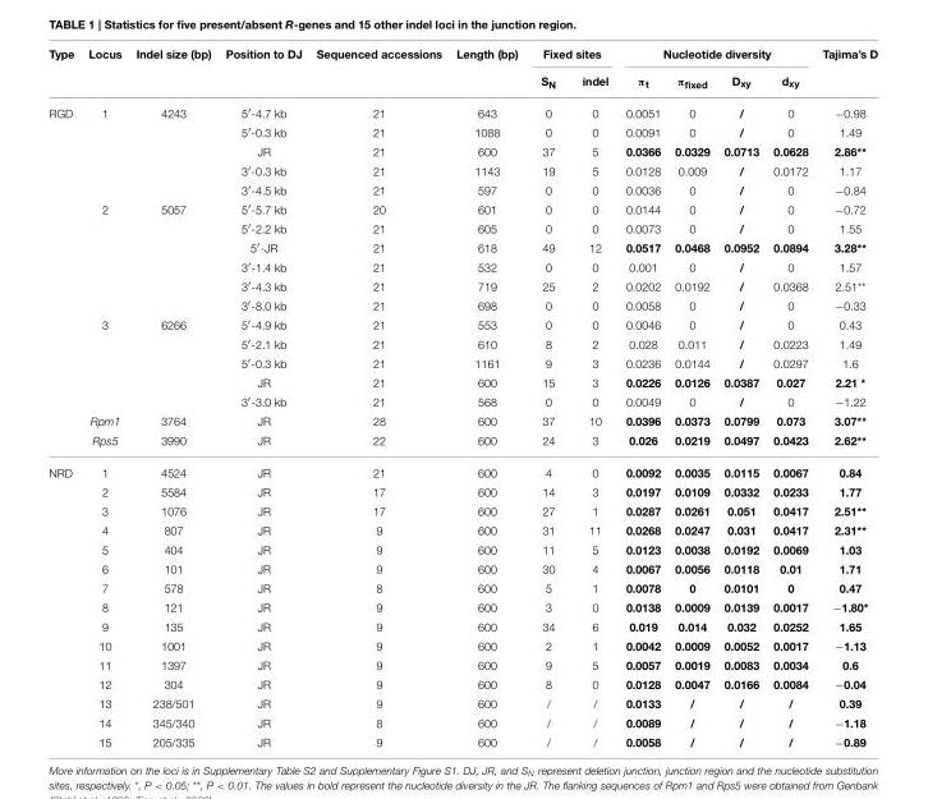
<table><thead><tr><td rowspan="2">Type</td><td rowspan="2">Locus</td><td rowspan="2">Indel size (bp)</td><td rowspan="2">Position to DJ</td><td rowspan="2">Sequenced accessions</td><td rowspan="2">Length (bp)</td><td colspan="2">Fixed sites</td><td colspan="4">Nucleotide diversity</td><td rowspan="2">Tajima’s D</td></tr><tr><td>S<sub>N</sub></td><td>indel</td><td>π<sub>t</sub></td><td>π<sub>fixed</sub></td><td>D<sub>xy</sub></td><td>d<sub>xy</sub></td></tr></thead><tbody><tr><td rowspan="18">RGD</td><td>1</td><td>4243</td><td>5′-4.7 kb</td><td>21</td><td>643</td><td>0</td><td>0</td><td>0.0051</td><td>0</td><td>/</td><td>0</td><td>−0.98</td></tr><tr><td></td><td></td><td>5′-0.3 kb</td><td>21</td><td>1088</td><td>0</td><td>0</td><td>0.0091</td><td>0</td><td>/</td><td>0</td><td>1.49</td></tr><tr><td></td><td></td><td>JR</td><td>21</td><td>600</td><td>37</td><td>5</td><td>0.0366</td><td>0.0329</td><td>0.0713</td><td>0.0628</td><td>2.86**</td></tr><tr><td></td><td></td><td>3′-0.3 kb</td><td>21</td><td>1143</td><td>19</td><td>5</td><td>0.0128</td><td>0.009</td><td>/</td><td>0.0172</td><td>1.17</td></tr><tr><td></td><td></td><td>3′-4.5 kb</td><td>21</td><td>597</td><td>0</td><td>0</td><td>0.0036</td><td>0</td><td>/</td><td>0</td><td>−0.84</td></tr><tr><td>2</td><td>5057</td><td>5′-5.7 kb</td><td>20</td><td>601</td><td>0</td><td>0</td><td>0.0144</td><td>0</td><td>/</td><td>0</td><td>−0.72</td></tr><tr><td></td><td></td><td>5′-2.2 kb</td><td>21</td><td>605</td><td>0</td><td>0</td><td>0.0073</td><td>0</td><td>/</td><td>0</td><td>1.55</td></tr><tr><td></td><td></td><td>5′-JR</td><td>21</td><td>618</td><td>49</td><td>12</td><td>0.0517</td><td>0.0468</td><td>0.0952</td><td>0.0894</td><td>3.28**</td></tr><tr><td></td><td></td><td>3′-1.4 kb</td><td>21</td><td>532</td><td>0</td><td>0</td><td>0.001</td><td>0</td><td>/</td><td>0</td><td>1.57</td></tr><tr><td></td><td></td><td>3′-4.3 kb</td><td>21</td><td>719</td><td>25</td><td>2</td><td>0.0202</td><td>0.0192</td><td>/</td><td>0.0368</td><td>2.51**</td></tr><tr><td></td><td></td><td>3′-8.0 kb</td><td>21</td><td>698</td><td>0</td><td>0</td><td>0.0058</td><td>0</td><td>/</td><td>0</td><td>−0.33</td></tr><tr><td>3</td><td>6266</td><td>5′-4.9 kb</td><td>21</td><td>553</td><td>0</td><td>0</td><td>0.0046</td><td>0</td><td>/</td><td>0</td><td>0.43</td></tr><tr><td></td><td></td><td>5′-2.1 kb</td><td>21</td><td>610</td><td>8</td><td>2</td><td>0.028</td><td>0.011</td><td>/</td><td>0.0223</td><td>1.49</td></tr><tr><td></td><td></td><td>5′-0.3 kb</td><td>21</td><td>1161</td><td>9</td><td>3</td><td>0.0236</td><td>0.0144</td><td>/</td><td>0.0297</td><td>1.6</td></tr><tr><td></td><td></td><td>JR</td><td>21</td><td>600</td><td>15</td><td>3</td><td>0.0226</td><td>0.0126</td><td>0.0387</td><td>0.027</td><td>2.21 *</td></tr><tr><td></td><td></td><td>3′-3.0 kb</td><td>21</td><td>568</td><td>0</td><td>0</td><td>0.0049</td><td>0</td><td>/</td><td>0</td><td>−1.22</td></tr><tr><td>Rpm1</td><td>3764</td><td>JR</td><td>28</td><td>600</td><td>37</td><td>10</td><td>0.0396</td><td>0.0373</td><td>0.0799</td><td>0.073</td><td>3.07**</td></tr><tr><td>Rps5</td><td>3990</td><td>JR</td><td>22</td><td>600</td><td>24</td><td>3</td><td>0.026</td><td>0.0219</td><td>0.0497</td><td>0.0423</td><td>2.62**</td></tr><tr><td rowspan="15">NRD</td><td>1</td><td>4524</td><td>JR</td><td>21</td><td>600</td><td>4</td><td>0</td><td>0.0092</td><td>0.0035</td><td>0.0115</td><td>0.0067</td><td>0.84</td></tr><tr><td>2</td><td>5584</td><td>JR</td><td>17</td><td>600</td><td>14</td><td>3</td><td>0.0197</td><td>0.0109</td><td>0.0332</td><td>0.0233</td><td>1.77</td></tr><tr><td>3</td><td>1076</td><td>JR</td><td>17</td><td>600</td><td>27</td><td>1</td><td>0.0287</td><td>0.0261</td><td>0.051</td><td>0.0417</td><td>2.51**</td></tr><tr><td>4</td><td>807</td><td>JR</td><td>9</td><td>600</td><td>31</td><td>11</td><td>0.0268</td><td>0.0247</td><td>0.031</td><td>0.0417</td><td>2.31**</td></tr><tr><td>5</td><td>404</td><td>JR</td><td>9</td><td>600</td><td>11</td><td>5</td><td>0.0123</td><td>0.0038</td><td>0.0192</td><td>0.0069</td><td>1.03</td></tr><tr><td>6</td><td>101</td><td>JR</td><td>9</td><td>600</td><td>30</td><td>4</td><td>0.0067</td><td>0.0056</td><td>0.0118</td><td>0.01</td><td>1.71</td></tr><tr><td>7</td><td>578</td><td>JR</td><td>8</td><td>600</td><td>5</td><td>1</td><td>0.0078</td><td>0</td><td>0.0101</td><td>0</td><td>0.47</td></tr><tr><td>8</td><td>121</td><td>JR</td><td>9</td><td>600</td><td>3</td><td>0</td><td>0.0138</td><td>0.0009</td><td>0.0139</td><td>0.0017</td><td>−1.80*</td></tr><tr><td>9</td><td>135</td><td>JR</td><td>9</td><td>600</td><td>34</td><td>6</td><td>0.019</td><td>0.014</td><td>0.032</td><td>0.0252</td><td>1.65</td></tr><tr><td>10</td><td>1001</td><td>JR</td><td>9</td><td>600</td><td>2</td><td>1</td><td>0.0042</td><td>0.0009</td><td>0.0052</td><td>0.0017</td><td>−1.13</td></tr><tr><td>11</td><td>1397</td><td>JR</td><td>9</td><td>600</td><td>9</td><td>5</td><td>0.0057</td><td>0.0019</td><td>0.0083</td><td>0.0034</td><td>0.6</td></tr><tr><td>12</td><td>304</td><td>JR</td><td>9</td><td>600</td><td>8</td><td>0</td><td>0.0128</td><td>0.0047</td><td>0.0166</td><td>0.0084</td><td>−0.04</td></tr><tr><td>13</td><td>238/501</td><td>JR</td><td>9</td><td>600</td><td>/</td><td>/</td><td>0.0133</td><td>/</td><td>/</td><td>/</td><td>0.39</td></tr><tr><td>14</td><td>345/340</td><td>JR</td><td>8</td><td>600</td><td>/</td><td>/</td><td>0.0089</td><td>/</td><td>/</td><td>/</td><td>−1.18</td></tr><tr><td>15</td><td>205/335</td><td>JR</td><td>9</td><td>600</td><td>/</td><td>/</td><td>0.0058</td><td>/</td><td>/</td><td>/</td><td>−0.89</td></tr></tbody></table>